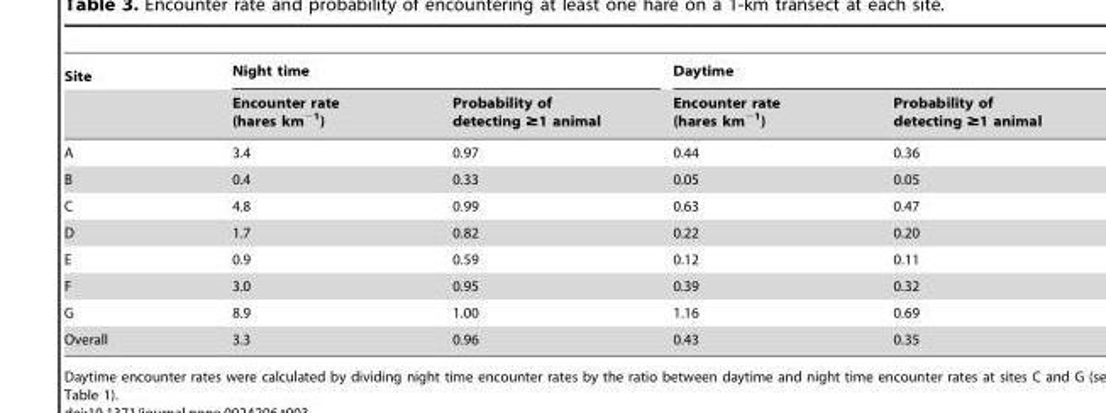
<table><thead><tr><td rowspan="2">Site</td><td colspan="2">Night time</td><td colspan="2">Daytime</td></tr><tr><td>Encounter rate (hares km<sup>−1</sup>)</td><td>Probability of detecting ≥1 animal</td><td>Encounter rate (hares km<sup>−1</sup>)</td><td>Probability of detecting ≥1 animal</td></tr></thead><tbody><tr><td>A</td><td>3.4</td><td>0.97</td><td>0.44</td><td>0.36</td></tr><tr><td>B</td><td>0.4</td><td>0.33</td><td>0.05</td><td>0.05</td></tr><tr><td>C</td><td>4.8</td><td>0.99</td><td>0.63</td><td>0.47</td></tr><tr><td>D</td><td>1.7</td><td>0.82</td><td>0.22</td><td>0.20</td></tr><tr><td>E</td><td>0.9</td><td>0.59</td><td>0.12</td><td>0.11</td></tr><tr><td>F</td><td>3.0</td><td>0.95</td><td>0.39</td><td>0.32</td></tr><tr><td>G</td><td>8.9</td><td>1.00</td><td>1.16</td><td>0.69</td></tr><tr><td>Overall</td><td>3.3</td><td>0.96</td><td>0.43</td><td>0.35</td></tr></tbody></table>